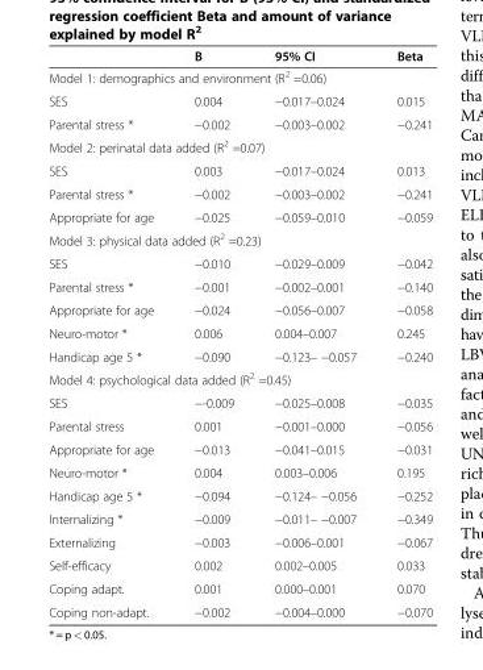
<table><thead><tr><td></td><td>B</td><td>95% CI</td><td>Beta</td></tr></thead><tbody><tr><td colspan="4">Model 1: demographics and environment (R<sup>2</sup> =0.06)</td></tr><tr><td>SES</td><td>0.004</td><td>−0.017–0.024</td><td>0.015</td></tr><tr><td>Parental stress *</td><td>−0.002</td><td>−0.003–0.002</td><td>−0.241</td></tr><tr><td colspan="4">Model 2: perinatal data added (R<sup>2</sup> =0.07)</td></tr><tr><td>SES</td><td>0.003</td><td>−0.017–0.024</td><td>0.013</td></tr><tr><td>Parental stress *</td><td>−0.002</td><td>−0.003–0.002</td><td>−0.241</td></tr><tr><td>Appropriate for age</td><td>−0.025</td><td>−0.059–0.010</td><td>−0.059</td></tr><tr><td colspan="4">Model 3: physical data added (R<sup>2</sup> =0.23)</td></tr><tr><td>SES</td><td>−0.010</td><td>−0.029–0.009</td><td>−0.042</td></tr><tr><td>Parental stress *</td><td>−0.001</td><td>−0.002–0.001</td><td>−0.140</td></tr><tr><td>Appropriate for age</td><td>−0.024</td><td>−0.056–0.007</td><td>−0.058</td></tr><tr><td>Neuro-motor *</td><td>0.006</td><td>0.004–0.007</td><td>0.245</td></tr><tr><td>Handicap age 5 *</td><td>−0.090</td><td>−0.123– −0.057</td><td>−0.240</td></tr><tr><td colspan="4">Model 4: psychological data added (R<sup>2</sup> =0.45)</td></tr><tr><td>SES</td><td>−-0.009</td><td>−0.025–0.008</td><td>−0.035</td></tr><tr><td>Parental stress</td><td>0.001</td><td>−0.001–0.000</td><td>−0.056</td></tr><tr><td>Appropriate for age</td><td>−0.013</td><td>−0.041–0.015</td><td>−0.031</td></tr><tr><td>Neuro-motor *</td><td>0.004</td><td>0.003–0.006</td><td>0.195</td></tr><tr><td>Handicap age 5 *</td><td>−0.094</td><td>−0.124– −0.056</td><td>−0.252</td></tr><tr><td>Internalizing *</td><td>−0.009</td><td>−0.011– −0.007</td><td>−0.349</td></tr><tr><td>Externalizing</td><td>−0.003</td><td>−0.006–0.001</td><td>−0.067</td></tr><tr><td>Self-efficacy</td><td>0.002</td><td>0.002–0.005</td><td>0.033</td></tr><tr><td>Coping adapt.</td><td>0.001</td><td>0.000–0.001</td><td>0.070</td></tr><tr><td>Coping non-adapt.</td><td>−0.002</td><td>−0.004–0.000</td><td>−0.070</td></tr></tbody></table>